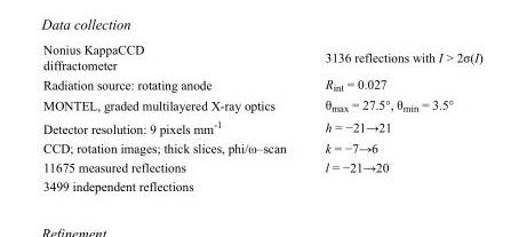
<table><tbody><tr><td>Nonius KappaCCD diffractometer</td><td>3136 reflections with I &gt; 2σ(I)</td></tr><tr><td>Radiation source: rotating anode</td><td>R<sub>int</sub> = 0.027</td></tr><tr><td>MONTEL, graded multilayered X-ray optics</td><td>θ<sub>max</sub> = 27.5°, θ<sub>min</sub> = 3.5°</td></tr><tr><td>Detector resolution: 9 pixels mm<sup>-1</sup></td><td>h = −21→21</td></tr><tr><td>CCD; rotation images; thick slices, phi/ω–scan</td><td>k = −7→6</td></tr><tr><td>11675 measured reflections</td><td>l = −21→20</td></tr><tr><td>3499 independent reflections</td><td></td></tr></tbody></table>